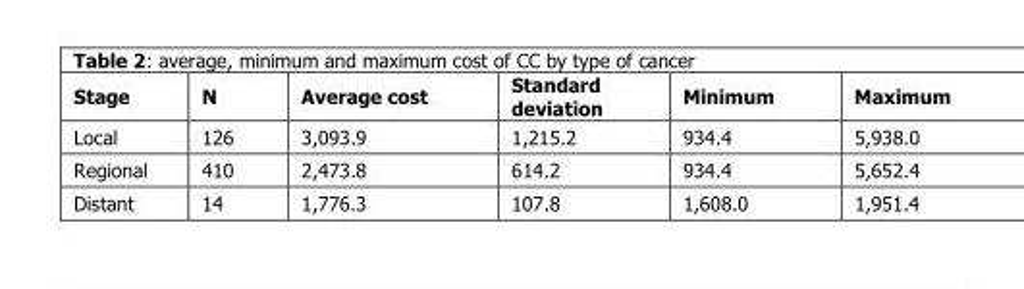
<table><thead><tr><td>Stage</td><td>N</td><td>Average cost</td><td>Standard deviation</td><td>Minimum</td><td>Maximum</td></tr></thead><tbody><tr><td>Local</td><td>126</td><td>3,093.9</td><td>1,215.2</td><td>934.4</td><td>5,938.0</td></tr><tr><td>Regional</td><td>410</td><td>2,473.8</td><td>614.2</td><td>934.4</td><td>5,652.4</td></tr><tr><td>Distant</td><td>14</td><td>1,776.3</td><td>107.8</td><td>1,608.0</td><td>1,951.4</td></tr></tbody></table>